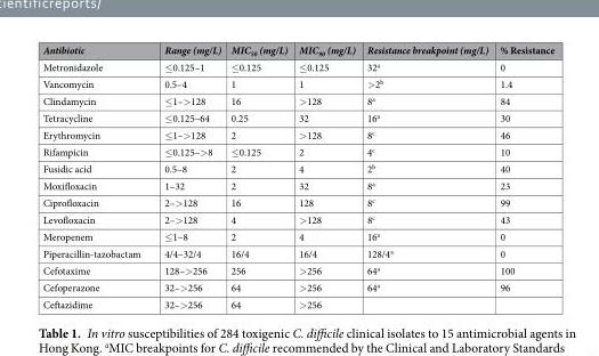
<table><thead><tr><td>Antibiotic</td><td>Range (mg/L)</td><td>MIC<sub>50</sub> (mg/L)</td><td>MIC<sub>90</sub> (mg/L)</td><td>Resistance breakpoint (mg/L)</td><td>% Resistance</td></tr></thead><tbody><tr><td>Metronidazole</td><td>≤0.125–1</td><td>≤0.125</td><td>≤0.125</td><td>32<sup>a</sup></td><td>0</td></tr><tr><td>Vancomycin</td><td>0.5–4</td><td>1</td><td>1</td><td>&gt;2<sup>b</sup></td><td>1.4</td></tr><tr><td>Clindamycin</td><td>≤1–&gt;128</td><td>16</td><td>&gt;128</td><td>8<sup>a</sup></td><td>84</td></tr><tr><td>Tetracycline</td><td>≤0.125–64</td><td>0.25</td><td>32</td><td>16<sup>a</sup></td><td>30</td></tr><tr><td>Erythromycin</td><td>≤1–&gt;128</td><td>2</td><td>&gt;128</td><td>8<sup>c</sup></td><td>46</td></tr><tr><td>Rifampicin</td><td>≤0.125–&gt;8</td><td>≤0.125</td><td>2</td><td>4<sup>c</sup></td><td>10</td></tr><tr><td>Fusidic acid</td><td>0.5–8</td><td>2</td><td>4</td><td>2<sup>b</sup></td><td>40</td></tr><tr><td>Moxifloxacin</td><td>1–32</td><td>2</td><td>32</td><td>8<sup>a</sup></td><td>23</td></tr><tr><td>Ciprofloxacin</td><td>2–&gt;128</td><td>16</td><td>128</td><td>8<sup>c</sup></td><td>99</td></tr><tr><td>Levofloxacin</td><td>2–&gt;128</td><td>4</td><td>&gt;128</td><td>8<sup>c</sup></td><td>43</td></tr><tr><td>Meropenem</td><td>≤1–8</td><td>2</td><td>4</td><td>16<sup>a</sup></td><td>0</td></tr><tr><td>Piperacillin-tazobactam</td><td>4/4–32/4</td><td>16/4</td><td>16/4</td><td>128/4<sup>a</sup></td><td>0</td></tr><tr><td>Cefotaxime</td><td>128–&gt;256</td><td>256</td><td>&gt;256</td><td>64<sup>a</sup></td><td>100</td></tr><tr><td>Cefoperazone</td><td>32–&gt;256</td><td>64</td><td>&gt;256</td><td>64<sup>a</sup></td><td>96</td></tr><tr><td>Ceftazidime</td><td>32–&gt;256</td><td>64</td><td>&gt;256</td><td></td><td></td></tr></tbody></table>